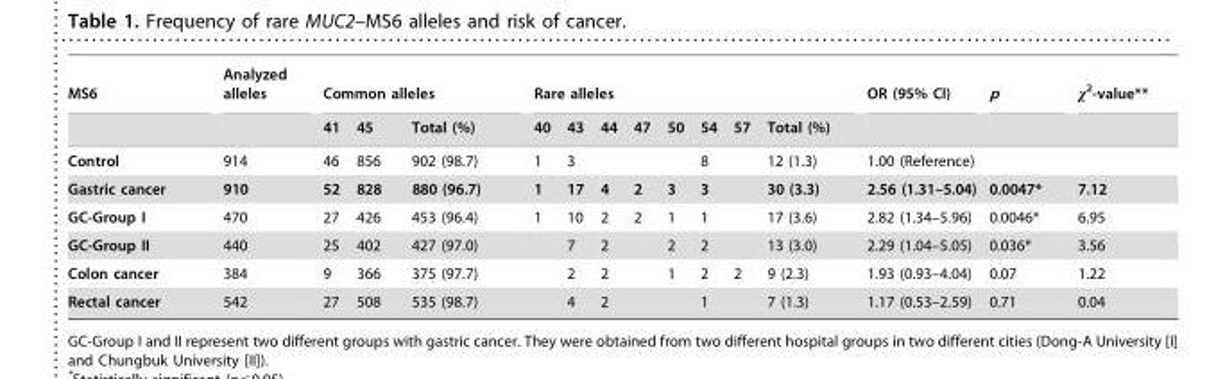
<table><thead><tr><td rowspan="2">MS6</td><td rowspan="2">Analyzed alleles</td><td colspan="3">Common alleles</td><td colspan="8">Rare alleles</td><td rowspan="2">OR (95% CI)</td><td rowspan="2">p</td><td rowspan="2">χ<sup>2</sup>-value**</td></tr><tr><td>41</td><td>45</td><td>Total (%)</td><td>40</td><td>43</td><td>44</td><td>47</td><td>50</td><td>54</td><td>57</td><td>Total (%)</td></tr></thead><tbody><tr><td>Control</td><td>914</td><td>46</td><td>856</td><td>902 (98.7)</td><td>1</td><td>3</td><td></td><td></td><td></td><td>8</td><td></td><td>12 (1.3)</td><td colspan="3">1.00 (Reference)</td></tr><tr><td>Gastric cancer</td><td>910</td><td>52</td><td>828</td><td>880 (96.7)</td><td>1</td><td>17</td><td>4</td><td>2</td><td>3</td><td>3</td><td></td><td>30 (3.3)</td><td>2.56 (1.31–5.04)</td><td>0.0047*</td><td>7.12</td></tr><tr><td>GC-Group I</td><td>470</td><td>27</td><td>426</td><td>453 (96.4)</td><td>1</td><td>10</td><td>2</td><td>2</td><td>1</td><td>1</td><td></td><td>17 (3.6)</td><td>2.82 (1.34–5.96)</td><td>0.0046*</td><td>6.95</td></tr><tr><td>GC-Group II</td><td>440</td><td>25</td><td>402</td><td>427 (97.0)</td><td></td><td>7</td><td>2</td><td></td><td>2</td><td>2</td><td></td><td>13 (3.0)</td><td>2.29 (1.04–5.05)</td><td>0.036*</td><td>3.56</td></tr><tr><td>Colon cancer</td><td>384</td><td>9</td><td>366</td><td>375 (97.7)</td><td></td><td>2</td><td>2</td><td></td><td>1</td><td>2</td><td>2</td><td>9 (2.3)</td><td>1.93 (0.93–4.04)</td><td>0.07</td><td>1.22</td></tr><tr><td>Rectal cancer</td><td>542</td><td>27</td><td>508</td><td>535 (98.7)</td><td></td><td>4</td><td>2</td><td></td><td></td><td>1</td><td></td><td>7 (1.3)</td><td>1.17 (0.53–2.59)</td><td>0.71</td><td>0.04</td></tr></tbody></table>